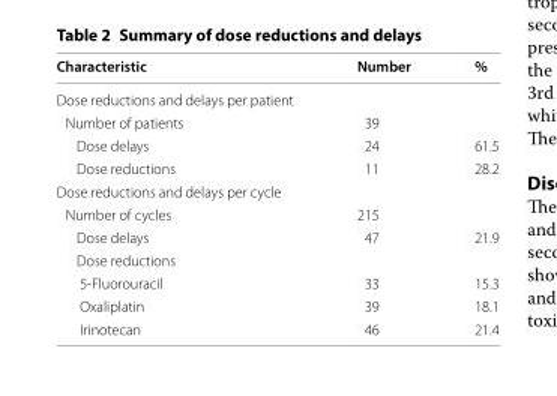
<table><thead><tr><td>Characteristic</td><td>Number</td><td>%</td></tr></thead><tbody><tr><td colspan="3">Dose reductions and delays per patient</td></tr><tr><td>Number of patients</td><td>39</td><td></td></tr><tr><td>Dose delays</td><td>24</td><td>61.5</td></tr><tr><td>Dose reductions</td><td>11</td><td>28.2</td></tr><tr><td colspan="3">Dose reductions and delays per cycle</td></tr><tr><td>Number of cycles</td><td>215</td><td></td></tr><tr><td>Dose delays</td><td>47</td><td>21.9</td></tr><tr><td colspan="3">Dose reductions</td></tr><tr><td>5‑Fluorouracil</td><td>33</td><td>15.3</td></tr><tr><td>Oxaliplatin</td><td>39</td><td>18.1</td></tr><tr><td>Irinotecan</td><td>46</td><td>21.4</td></tr></tbody></table>